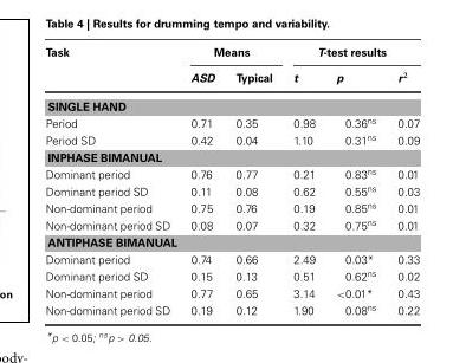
<table><thead><tr><td rowspan="2">Task</td><td colspan="2">Means</td><td colspan="3">T-test results</td></tr><tr><td>ASD</td><td>Typical</td><td>t</td><td>p</td><td>r<sup>2</sup></td></tr></thead><tbody><tr><td colspan="6">SINGLE HAND</td></tr><tr><td>Period</td><td>0.71</td><td>0.35</td><td>0.98</td><td>0.36<sup>ns</sup></td><td>0.07</td></tr><tr><td>Period SD</td><td>0.42</td><td>0.04</td><td>1.10</td><td>0.31<sup>ns</sup></td><td>0.09</td></tr><tr><td colspan="6">INPHASE BIMANUAL</td></tr><tr><td>Dominant period</td><td>0.76</td><td>0.77</td><td>0.21</td><td>0.83<sup>ns</sup></td><td>0.01</td></tr><tr><td>Dominant period SD</td><td>0.11</td><td>0.08</td><td>0.62</td><td>0.55<sup>ns</sup></td><td>0.03</td></tr><tr><td>Non-dominant period</td><td>0.75</td><td>0.76</td><td>0.19</td><td>0.85<sup>ns</sup></td><td>0.01</td></tr><tr><td>Non-dominant period SD</td><td>0.08</td><td>0.07</td><td>0.32</td><td>0.75<sup>ns</sup></td><td>0.01</td></tr><tr><td colspan="6">ANTIPHASE BIMANUAL</td></tr><tr><td>Dominant period</td><td>0.74</td><td>0.66</td><td>2.49</td><td>0.03*</td><td>0.33</td></tr><tr><td>Dominant period SD</td><td>0.15</td><td>0.13</td><td>0.51</td><td>0.62<sup>ns</sup></td><td>0.02</td></tr><tr><td>Non-dominant period</td><td>0.77</td><td>0.65</td><td>3.14</td><td>&lt;0.01*</td><td>0.43</td></tr><tr><td>Non-dominant period SD</td><td>0.19</td><td>0.12</td><td>1.90</td><td>0.08<sup>ns</sup></td><td>0.22</td></tr></tbody></table>